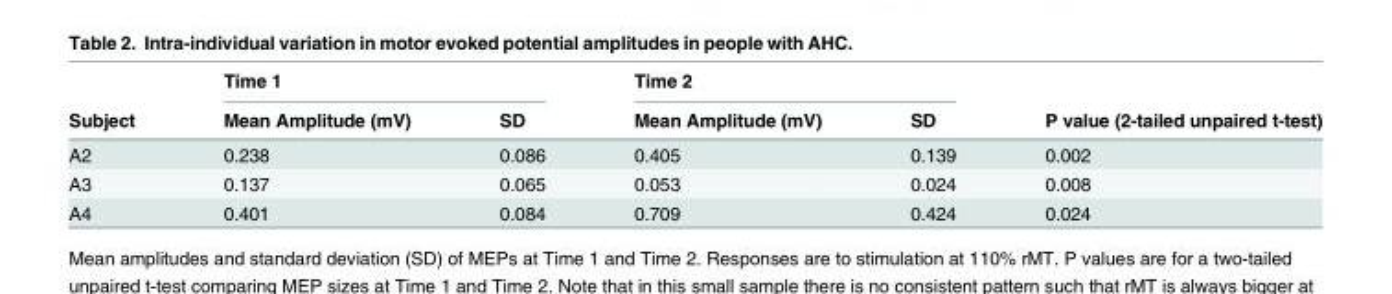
<table><thead><tr><td rowspan="2">Subject</td><td colspan="2">Time 1</td><td colspan="2">Time 2</td><td rowspan="2">P value (2-tailed unpaired t-test)</td></tr><tr><td>Mean Amplitude (mV)</td><td>SD</td><td>Mean Amplitude (mV)</td><td>SD</td></tr></thead><tbody><tr><td>A2</td><td>0.238</td><td>0.086</td><td>0.405</td><td>0.139</td><td>0.002</td></tr><tr><td>A3</td><td>0.137</td><td>0.065</td><td>0.053</td><td>0.024</td><td>0.008</td></tr><tr><td>A4</td><td>0.401</td><td>0.084</td><td>0.709</td><td>0.424</td><td>0.024</td></tr></tbody></table>